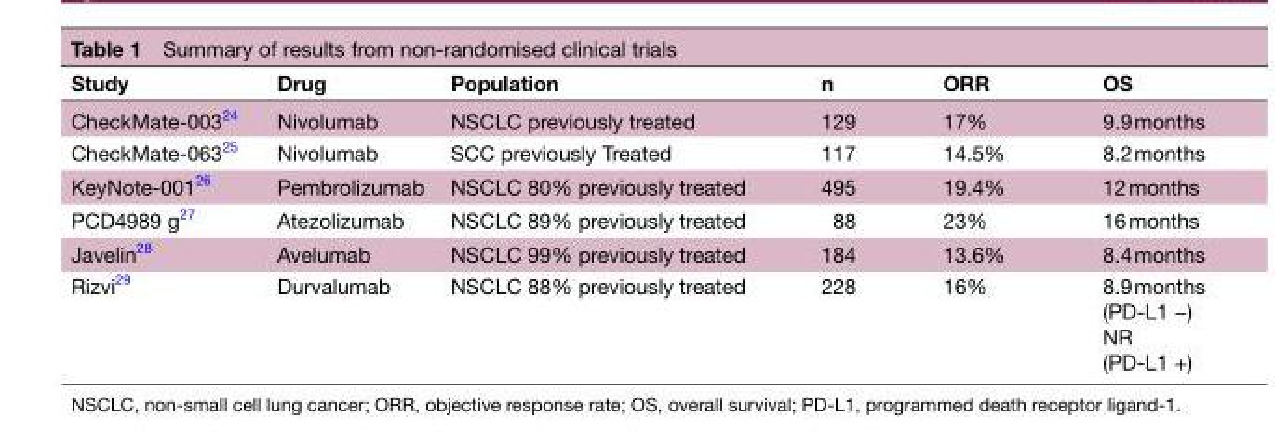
<table><thead><tr><td>Study</td><td>Drug</td><td>Population</td><td>n</td><td>ORR</td><td>OS</td></tr></thead><tbody><tr><td>CheckMate-003<sup>24</sup></td><td>Nivolumab</td><td>NSCLC previously treated</td><td>129</td><td>17%</td><td>9.9 months</td></tr><tr><td>CheckMate-063<sup>25</sup></td><td>Nivolumab</td><td>SCC previously Treated</td><td>117</td><td>14.5%</td><td>8.2 months</td></tr><tr><td>KeyNote-001<sup>26</sup></td><td>Pembrolizumab</td><td>NSCLC 80% previously treated</td><td>495</td><td>19.4%</td><td>12 months</td></tr><tr><td>PCD4989 g<sup>27</sup></td><td>Atezolizumab</td><td>NSCLC 89% previously treated</td><td>88</td><td>23%</td><td>16 months</td></tr><tr><td>Javelin<sup>28</sup></td><td>Avelumab</td><td>NSCLC 99% previously treated</td><td>184</td><td>13.6%</td><td>8.4 months</td></tr><tr><td>Rizvi<sup>29</sup></td><td>Durvalumab</td><td>NSCLC 88% previously treated</td><td>228</td><td>16%</td><td>8.9 months (PD-L1 −) NR (PD-L1 +)</td></tr></tbody></table>